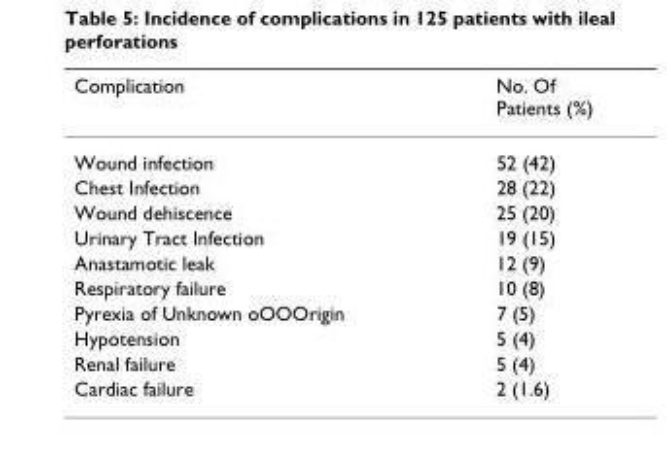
<table><thead><tr><td>Complication</td><td>No. Of Patients (%)</td></tr></thead><tbody><tr><td>Wound infection</td><td>52 (42)</td></tr><tr><td>Chest Infection</td><td>28 (22)</td></tr><tr><td>Wound dehiscence</td><td>25 (20)</td></tr><tr><td>Urinary Tract Infection</td><td>19 (15)</td></tr><tr><td>Anastamotic leak</td><td>12 (9)</td></tr><tr><td>Respiratory failure</td><td>10 (8)</td></tr><tr><td>Pyrexia of Unknown oOOOrigin</td><td>7 (5)</td></tr><tr><td>Hypotension</td><td>5 (4)</td></tr><tr><td>Renal failure</td><td>5 (4)</td></tr><tr><td>Cardiac failure</td><td>2 (1.6)</td></tr></tbody></table>